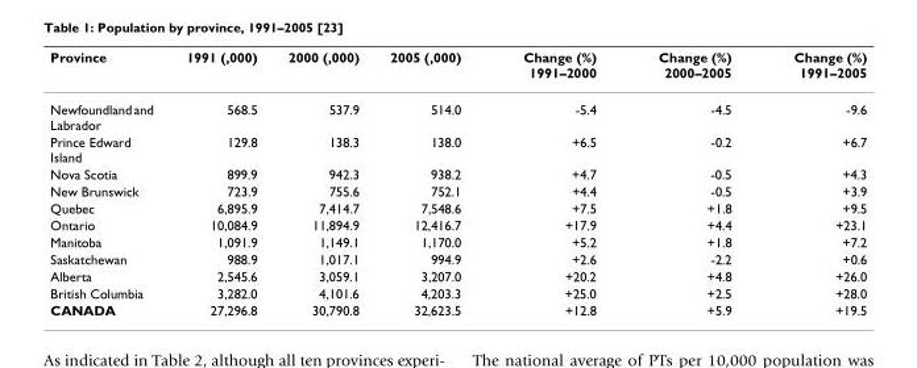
<table><thead><tr><td>Province</td><td>1991 (,000)</td><td>2000 (,000)</td><td>2005 (,000)</td><td>Change (%) 1991–2000</td><td>Change (%) 2000–2005</td><td>Change (%) 1991–2005</td></tr></thead><tbody><tr><td>Newfoundland and Labrador</td><td>568.5</td><td>537.9</td><td>514.0</td><td>-5.4</td><td>-4.5</td><td>-9.6</td></tr><tr><td>Prince Edward Island</td><td>129.8</td><td>138.3</td><td>138.0</td><td>+6.5</td><td>-0.2</td><td>+6.7</td></tr><tr><td>Nova Scotia</td><td>899.9</td><td>942.3</td><td>938.2</td><td>+4.7</td><td>-0.5</td><td>+4.3</td></tr><tr><td>New Brunswick</td><td>723.9</td><td>755.6</td><td>752.1</td><td>+4.4</td><td>-0.5</td><td>+3.9</td></tr><tr><td>Quebec</td><td>6,895.9</td><td>7,414.7</td><td>7,548.6</td><td>+7.5</td><td>+1.8</td><td>+9.5</td></tr><tr><td>Ontario</td><td>10,084.9</td><td>11,894.9</td><td>12,416.7</td><td>+17.9</td><td>+4.4</td><td>+23.1</td></tr><tr><td>Manitoba</td><td>1,091.9</td><td>1,149.1</td><td>1,170.0</td><td>+5.2</td><td>+1.8</td><td>+7.2</td></tr><tr><td>Saskatchewan</td><td>988.9</td><td>1,017.1</td><td>994.9</td><td>+2.6</td><td>-2.2</td><td>+0.6</td></tr><tr><td>Alberta</td><td>2,545.6</td><td>3,059.1</td><td>3,207.0</td><td>+20.2</td><td>+4.8</td><td>+26.0</td></tr><tr><td>British Columbia</td><td>3,282.0</td><td>4,101.6</td><td>4,203.3</td><td>+25.0</td><td>+2.5</td><td>+28.0</td></tr><tr><td>CANADA</td><td>27,296.8</td><td>30,790.8</td><td>32,623.5</td><td>+12.8</td><td>+5.9</td><td>+19.5</td></tr></tbody></table>